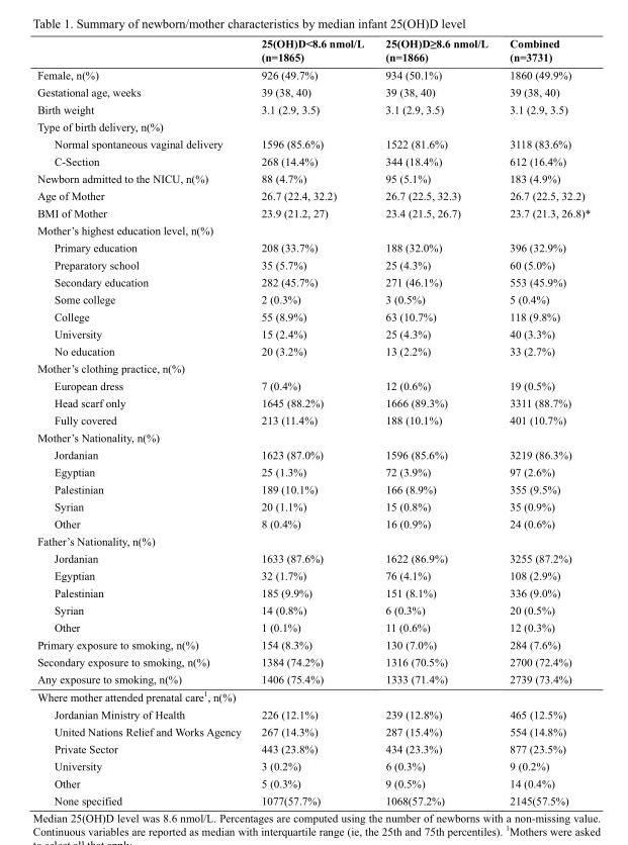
<table><thead><tr><td></td><td>25(OH)D&lt;8.6 nmol/L (n=1865)</td><td>25(OH)D≥8.6 nmol/L (n=1866)</td><td>Combined (n=3731)</td></tr></thead><tbody><tr><td>Female, n(%)</td><td>926 (49.7%)</td><td>934 (50.1%)</td><td>1860 (49.9%)</td></tr><tr><td>Gestational age, weeks</td><td>39 (38, 40)</td><td>39 (38, 40)</td><td>39 (38, 40)</td></tr><tr><td>Birth weight</td><td>3.1 (2.9, 3.5)</td><td>3.1 (2.9, 3.5)</td><td>3.1 (2.9, 3.5)</td></tr><tr><td colspan="4">Type of birth delivery, n(%)</td></tr><tr><td>Normal spontaneous vaginal delivery</td><td>1596 (85.6%)</td><td>1522 (81.6%)</td><td>3118 (83.6%)</td></tr><tr><td>C-Section</td><td>268 (14.4%)</td><td>344 (18.4%)</td><td>612 (16.4%)</td></tr><tr><td>Newborn admitted to the NICU, n(%)</td><td>88 (4.7%)</td><td>95 (5.1%)</td><td>183 (4.9%)</td></tr><tr><td>Age of Mother</td><td>26.7 (22.4, 32.2)</td><td>26.7 (22.5, 32.3)</td><td>26.7 (22.5, 32.2)</td></tr><tr><td>BMI of Mother</td><td>23.9 (21.2, 27)</td><td>23.4 (21.5, 26.7)</td><td>23.7 (21.3, 26.8)*</td></tr><tr><td colspan="4">Mother’s highest education level, n(%)</td></tr><tr><td>Primary education</td><td>208 (33.7%)</td><td>188 (32.0%)</td><td>396 (32.9%)</td></tr><tr><td>Preparatory school</td><td>35 (5.7%)</td><td>25 (4.3%)</td><td>60 (5.0%)</td></tr><tr><td>Secondary education</td><td>282 (45.7%)</td><td>271 (46.1%)</td><td>553 (45.9%)</td></tr><tr><td>Some college</td><td>2 (0.3%)</td><td>3 (0.5%)</td><td>5 (0.4%)</td></tr><tr><td>College</td><td>55 (8.9%)</td><td>63 (10.7%)</td><td>118 (9.8%)</td></tr><tr><td>University</td><td>15 (2.4%)</td><td>25 (4.3%)</td><td>40 (3.3%)</td></tr><tr><td>No education</td><td>20 (3.2%)</td><td>13 (2.2%)</td><td>33 (2.7%)</td></tr><tr><td colspan="4">Mother’s clothing practice, n(%)</td></tr><tr><td>European dress</td><td>7 (0.4%)</td><td>12 (0.6%)</td><td>19 (0.5%)</td></tr><tr><td>Head scarf only</td><td>1645 (88.2%)</td><td>1666 (89.3%)</td><td>3311 (88.7%)</td></tr><tr><td>Fully covered</td><td>213 (11.4%)</td><td>188 (10.1%)</td><td>401 (10.7%)</td></tr><tr><td colspan="4">Mother’s Nationality, n(%)</td></tr><tr><td>Jordanian</td><td>1623 (87.0%)</td><td>1596 (85.6%)</td><td>3219 (86.3%)</td></tr><tr><td>Egyptian</td><td>25 (1.3%)</td><td>72 (3.9%)</td><td>97 (2.6%)</td></tr><tr><td>Palestinian</td><td>189 (10.1%)</td><td>166 (8.9%)</td><td>355 (9.5%)</td></tr><tr><td>Syrian</td><td>20 (1.1%)</td><td>15 (0.8%)</td><td>35 (0.9%)</td></tr><tr><td>Other</td><td>8 (0.4%)</td><td>16 (0.9%)</td><td>24 (0.6%)</td></tr><tr><td colspan="4">Father’s Nationality, n(%)</td></tr><tr><td>Jordanian</td><td>1633 (87.6%)</td><td>1622 (86.9%)</td><td>3255 (87.2%)</td></tr><tr><td>Egyptian</td><td>32 (1.7%)</td><td>76 (4.1%)</td><td>108 (2.9%)</td></tr><tr><td>Palestinian</td><td>185 (9.9%)</td><td>151 (8.1%)</td><td>336 (9.0%)</td></tr><tr><td>Syrian</td><td>14 (0.8%)</td><td>6 (0.3%)</td><td>20 (0.5%)</td></tr><tr><td>Other</td><td>1 (0.1%)</td><td>11 (0.6%)</td><td>12 (0.3%)</td></tr><tr><td>Primary exposure to smoking, n(%)</td><td>154 (8.3%)</td><td>130 (7.0%)</td><td>284 (7.6%)</td></tr><tr><td>Secondary exposure to smoking, n(%)</td><td>1384 (74.2%)</td><td>1316 (70.5%)</td><td>2700 (72.4%)</td></tr><tr><td>Any exposure to smoking, n(%)</td><td>1406 (75.4%)</td><td>1333 (71.4%)</td><td>2739 (73.4%)</td></tr><tr><td colspan="4">Where mother attended prenatal care<sup>1</sup>, n(%)</td></tr><tr><td>Jordanian Ministry of Health</td><td>226 (12.1%)</td><td>239 (12.8%)</td><td>465 (12.5%)</td></tr><tr><td>United Nations Relief and Works Agency</td><td>267 (14.3%)</td><td>287 (15.4%)</td><td>554 (14.8%)</td></tr><tr><td>Private Sector</td><td>443 (23.8%)</td><td>434 (23.3%)</td><td>877 (23.5%)</td></tr><tr><td>University</td><td>3 (0.2%)</td><td>6 (0.3%)</td><td>9 (0.2%)</td></tr><tr><td>Other None specified</td><td>5 (0.3%) 1077(57.7%)</td><td>9 (0.5%) 1068(57.2%)</td><td>14 (0.4%) 2145(57.5%)</td></tr></tbody></table>